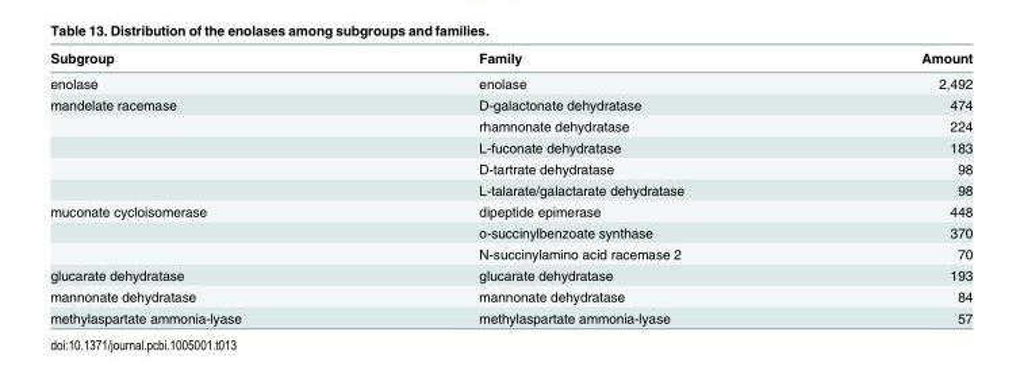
<table><thead><tr><td>Subgroup</td><td>Family</td><td>Amount</td></tr></thead><tbody><tr><td>enolase</td><td>enolase</td><td>2,492</td></tr><tr><td rowspan="5">mandelate racemase</td><td>D-galactonate dehydratase</td><td>474</td></tr><tr><td>rhamnonate dehydratase</td><td>224</td></tr><tr><td>L-fuconate dehydratase</td><td>183</td></tr><tr><td>D-tartrate dehydratase</td><td>98</td></tr><tr><td>L-talarate/galactarate dehydratase</td><td>98</td></tr><tr><td rowspan="3">muconate cycloisomerase</td><td>dipeptide epimerase</td><td>448</td></tr><tr><td>o-succinylbenzoate synthase</td><td>370</td></tr><tr><td>N-succinylamino acid racemase 2</td><td>70</td></tr><tr><td>glucarate dehydratase</td><td>glucarate dehydratase</td><td>193</td></tr><tr><td>mannonate dehydratase</td><td>mannonate dehydratase</td><td>84</td></tr><tr><td>methylaspartate ammonia-lyase</td><td>methylaspartate ammonia-lyase</td><td>57</td></tr></tbody></table>